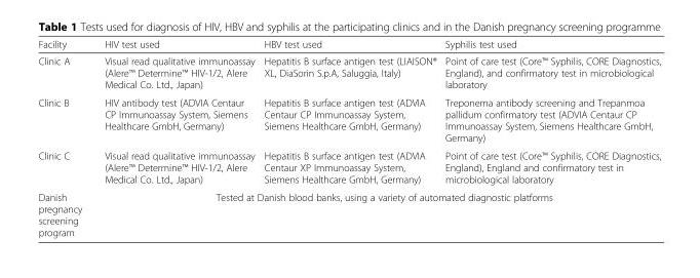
<table><thead><tr><td>Facility</td><td>HIV test used</td><td>HBV test used</td><td>Syphilis test used</td></tr></thead><tbody><tr><td>Clinic A</td><td>Visual read qualitative immunoassay (Alere™ Determine™ HIV-1/2, Alere Medical Co. Ltd., Japan)</td><td>Hepatitis B surface antigen test (LIAISON® XL, DiaSorin S.p.A, Saluggia, Italy)</td><td>Point of care test (Core™ Syphilis, CORE Diagnostics, England), and confirmatory test in microbiological laboratory</td></tr><tr><td>Clinic B</td><td>HIV antibody test (ADVIA Centaur CP Immunoassay System, Siemens Healthcare GmbH, Germany)</td><td>Hepatitis B surface antigen test (ADVIA Centaur CP Immunoassay System, Siemens Healthcare GmbH, Germany)</td><td>Treponema antibody screening and Trepanmoa pallidum confirmatory test (ADVIA Centaur CP Immunoassay System, Siemens Healthcare GmbH, Germany)</td></tr><tr><td>Clinic C</td><td>Visual read qualitative immunoassay (Alere™ Determine™ HIV-1/2, Alere Medical Co. Ltd., Japan)</td><td>Hepatitis B surface antigen test (ADVIA Centaur XP Immunoassay System, Siemens Healthcare GmbH, Germany)</td><td>Point of care test (Core™ Syphilis, CORE Diagnostics, England), England and confirmatory test in microbiological laboratory</td></tr><tr><td>Danish pregnancy screening program</td><td colspan="3">Tested at Danish blood banks, using a variety of automated diagnostic platforms</td></tr></tbody></table>